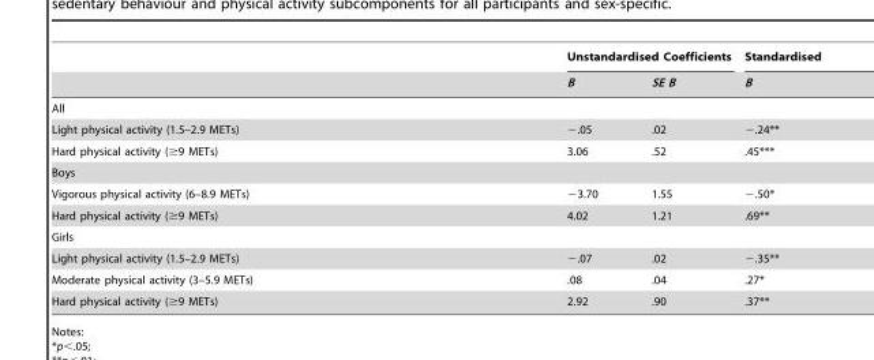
<table><thead><tr><td rowspan="2"></td><td colspan="2">Unstandardised Coefficients</td><td rowspan="2">Standardised B</td></tr><tr><td>B</td><td>SE B</td></tr></thead><tbody><tr><td colspan="4">All</td></tr><tr><td>Light physical activity (1.5–2.9 METs)</td><td>−.05</td><td>.02</td><td>−.24**</td></tr><tr><td>Hard physical activity (≥9 METs)</td><td>3.06</td><td>.52</td><td>.45***</td></tr><tr><td colspan="4">Boys</td></tr><tr><td>Vigorous physical activity (6–8.9 METs)</td><td>−3.70</td><td>1.55</td><td>−.50*</td></tr><tr><td>Hard physical activity (≥9 METs)</td><td>4.02</td><td>1.21</td><td>.69**</td></tr><tr><td colspan="4">Girls</td></tr><tr><td>Light physical activity (1.5–2.9 METs)</td><td>−.07</td><td>.02</td><td>−.35**</td></tr><tr><td>Moderate physical activity (3–5.9 METs)</td><td>.08</td><td>.04</td><td>.27*</td></tr><tr><td>Hard physical activity (≥9 METs)</td><td>2.92</td><td>.90</td><td>.37**</td></tr></tbody></table>